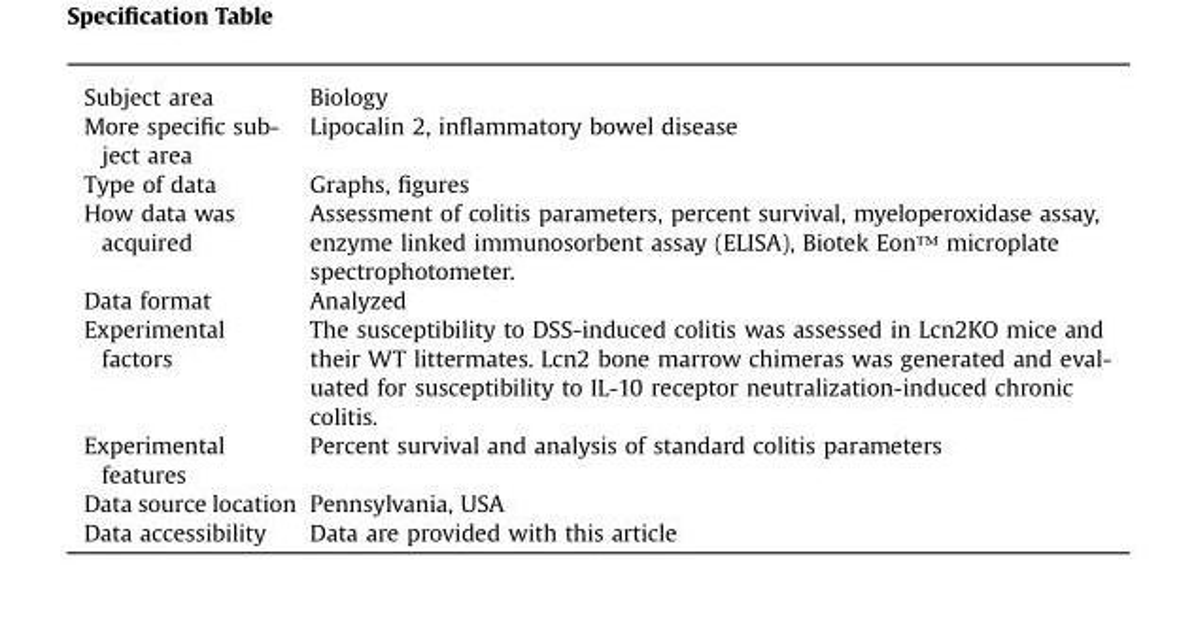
<table><tbody><tr><td>Subject area</td><td>Biology</td></tr><tr><td>More specific sub- ject area</td><td>Lipocalin 2, inflammatory bowel disease</td></tr><tr><td>Type of data</td><td>Graphs, figures</td></tr><tr><td>How data was acquired</td><td>Assessment of colitis parameters, percent survival, myeloperoxidase assay, enzyme linked immunosorbent assay (ELISA), Biotek Eon™ microplate spectrophotometer.</td></tr><tr><td>Data format</td><td>Analyzed</td></tr><tr><td>Experimental factors</td><td>The susceptibility to DSS-induced colitis was assessed in Lcn2KO mice and their WT littermates. Lcn2 bone marrow chimeras was generated and eval- uated for susceptibility to IL-10 receptor neutralization-induced chronic colitis.</td></tr><tr><td>Experimental features</td><td>Percent survival and analysis of standard colitis parameters</td></tr><tr><td>Data source location</td><td>Pennsylvania, USA</td></tr><tr><td>Data accessibility</td><td>Data are provided with this article</td></tr></tbody></table>